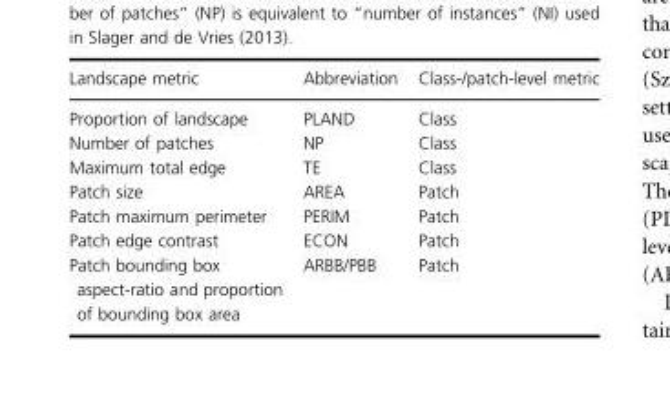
<table><thead><tr><td>Landscape metric</td><td>Abbreviation</td><td>Class-/patch-level metric</td></tr></thead><tbody><tr><td>Proportion of landscape</td><td>PLAND</td><td>Class</td></tr><tr><td>Number of patches</td><td>NP</td><td>Class</td></tr><tr><td>Maximum total edge</td><td>TE</td><td>Class</td></tr><tr><td>Patch size</td><td>AREA</td><td>Patch</td></tr><tr><td>Patch maximum perimeter</td><td>PERIM</td><td>Patch</td></tr><tr><td>Patch edge contrast</td><td>ECON</td><td>Patch</td></tr><tr><td>Patch bounding box aspect-ratio and proportion of bounding box area</td><td>ARBB/PBB</td><td>Patch</td></tr></tbody></table>